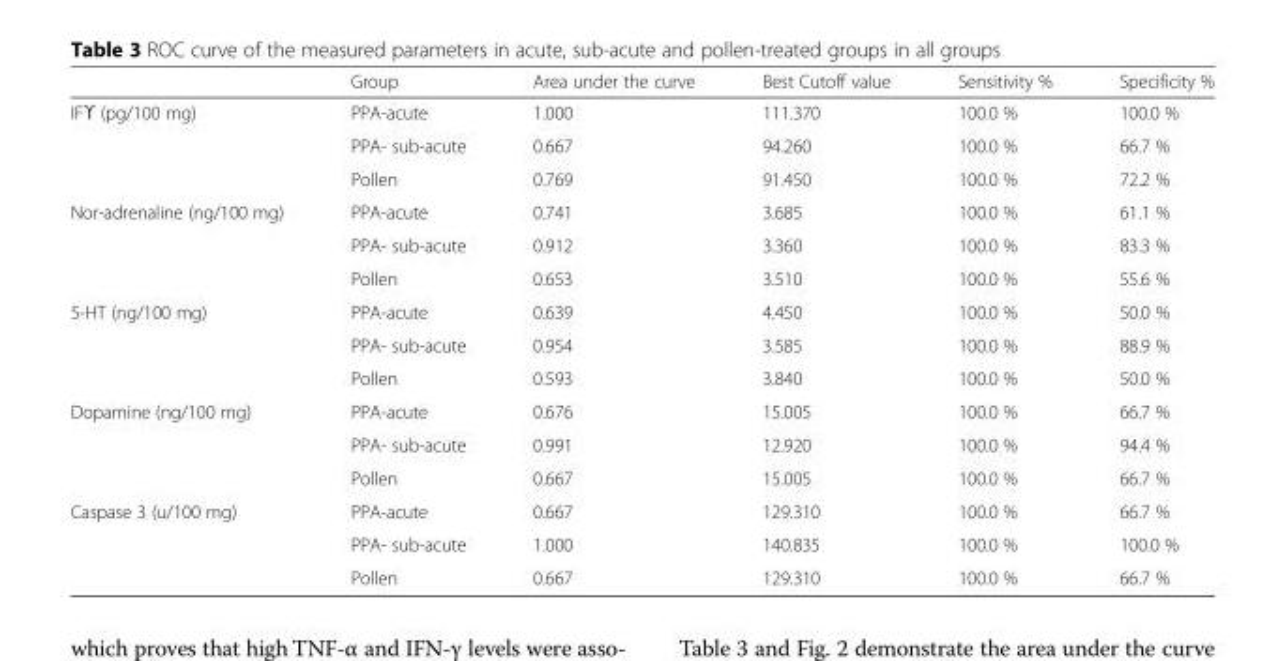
<table><thead><tr><td></td><td>Group</td><td>Area under the curve</td><td>Best Cutoff value</td><td>Sensitivity %</td><td>Specificity %</td></tr></thead><tbody><tr><td rowspan="3">IFϒ (pg/100 mg)</td><td>PPA-acute</td><td>1.000</td><td>111.370</td><td>100.0 %</td><td>100.0 %</td></tr><tr><td>PPA- sub-acute</td><td>0.667</td><td>94.260</td><td>100.0 %</td><td>66.7 %</td></tr><tr><td>Pollen</td><td>0.769</td><td>91.450</td><td>100.0 %</td><td>72.2 %</td></tr><tr><td rowspan="3">Nor-adrenaline (ng/100 mg)</td><td>PPA-acute</td><td>0.741</td><td>3.685</td><td>100.0 %</td><td>61.1 %</td></tr><tr><td>PPA- sub-acute</td><td>0.912</td><td>3.360</td><td>100.0 %</td><td>83.3 %</td></tr><tr><td>Pollen</td><td>0.653</td><td>3.510</td><td>100.0 %</td><td>55.6 %</td></tr><tr><td rowspan="3">5-HT (ng/100 mg)</td><td>PPA-acute</td><td>0.639</td><td>4.450</td><td>100.0 %</td><td>50.0 %</td></tr><tr><td>PPA- sub-acute</td><td>0.954</td><td>3.585</td><td>100.0 %</td><td>88.9 %</td></tr><tr><td>Pollen</td><td>0.593</td><td>3.840</td><td>100.0 %</td><td>50.0 %</td></tr><tr><td rowspan="3">Dopamine (ng/100 mg)</td><td>PPA-acute</td><td>0.676</td><td>15.005</td><td>100.0 %</td><td>66.7 %</td></tr><tr><td>PPA- sub-acute</td><td>0.991</td><td>12.920</td><td>100.0 %</td><td>94.4 %</td></tr><tr><td>Pollen</td><td>0.667</td><td>15.005</td><td>100.0 %</td><td>66.7 %</td></tr><tr><td rowspan="3">Caspase 3 (u/100 mg)</td><td>PPA-acute</td><td>0.667</td><td>129.310</td><td>100.0 %</td><td>66.7 %</td></tr><tr><td>PPA- sub-acute</td><td>1.000</td><td>140.835</td><td>100.0 %</td><td>100.0 %</td></tr><tr><td>Pollen</td><td>0.667</td><td>129.310</td><td>100.0 %</td><td>66.7 %</td></tr></tbody></table>